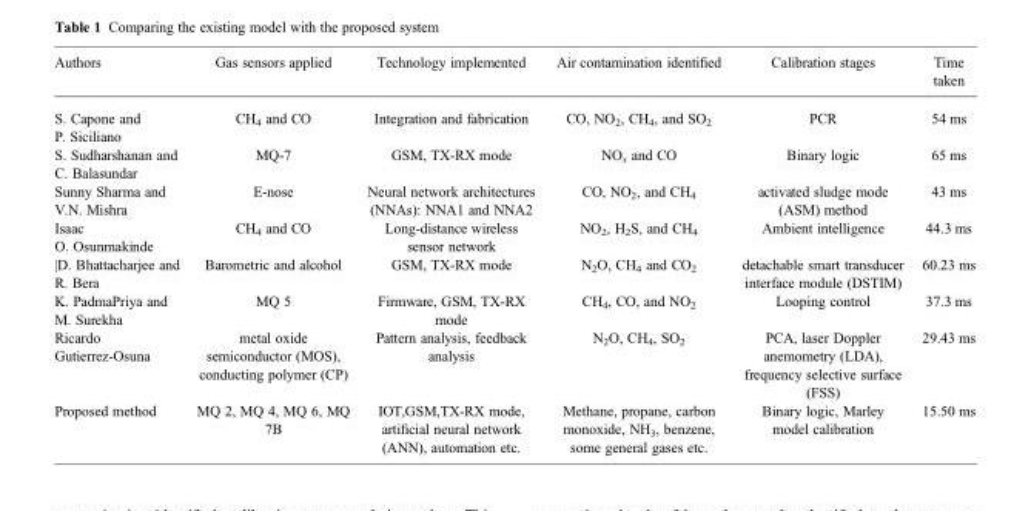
<table><thead><tr><td>Authors</td><td>Gas sensors applied</td><td>Technology implemented</td><td>Air contamination identified</td><td>Calibration stages</td><td>Time taken</td></tr></thead><tbody><tr><td>S. Capone and P. Siciliano</td><td>CH<sub>4</sub> and CO</td><td>Integration and fabrication</td><td>CO, NO<sub>2</sub>, CH<sub>4</sub>, and SO<sub>2</sub></td><td>PCR</td><td>54 ms</td></tr><tr><td>S. Sudharshanan and C. Balasundar</td><td>MQ-7</td><td>GSM, TX-RX mode</td><td>NO<sub>x</sub> and CO</td><td>Binary logic</td><td>65 ms</td></tr><tr><td>Sunny Sharma and V.N. Mishra</td><td>E-nose</td><td>Neural network architectures (NNAs): NNA1 and NNA2</td><td>CO, NO<sub>2</sub>, and CH<sub>4</sub></td><td>activated sludge mode (ASM) method</td><td>43 ms</td></tr><tr><td>Isaac O. Osunmakinde</td><td>CH<sub>4</sub> and CO</td><td>Long-distance wireless sensor network</td><td>NO<sub>2</sub>, H<sub>2</sub>S, and CH<sub>4</sub></td><td>Ambient intelligence</td><td>44.3 ms</td></tr><tr><td>|D. Bhattacharjee and R. Bera</td><td>Barometric and alcohol</td><td>GSM, TX-RX mode</td><td>N<sub>2</sub>O, CH<sub>4</sub> and CO<sub>2</sub></td><td>detachable smart transducer interface module (DSTIM)</td><td>60.23 ms</td></tr><tr><td>K. PadmaPriya and M. Surekha</td><td>MQ 5</td><td>Firmware, GSM, TX-RX mode</td><td>CH<sub>4</sub>, CO, and NO<sub>2</sub></td><td>Looping control</td><td>37.3 ms</td></tr><tr><td>Ricardo Gutierrez-Osuna</td><td>metal oxide semiconductor (MOS), conducting polymer (CP)</td><td>Pattern analysis, feedback analysis</td><td>N<sub>2</sub>O, CH<sub>4</sub>, SO<sub>2</sub></td><td>PCA, laser Doppler anemometry (LDA), frequency selective surface (FSS)</td><td>29.43 ms</td></tr><tr><td>Proposed method</td><td>MQ 2, MQ 4, MQ 6, MQ 7B</td><td>IOT,GSM,TX-RX mode, artificial neural network (ANN), automation etc.</td><td>Methane, propane, carbon monoxide, NH<sub>3</sub>, benzene, some general gases etc.</td><td>Binary logic, Marley model calibration</td><td>15.50 ms</td></tr></tbody></table>